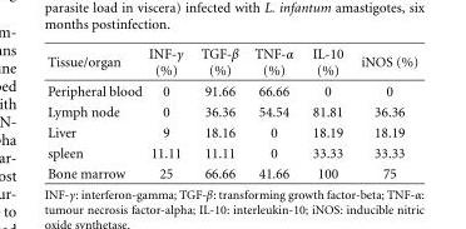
<table><thead><tr><td>Tissue/organ</td><td>INF-γ (%)</td><td>TGF-β (%)</td><td>TNF-α (%)</td><td>IL-10 (%)</td><td>iNOS (%)</td></tr></thead><tbody><tr><td>Peripheral blood</td><td>0</td><td>91.66</td><td>66.66</td><td>0</td><td>0</td></tr><tr><td>Lymph node</td><td>0</td><td>36.36</td><td>54.54</td><td>81.81</td><td>36.36</td></tr><tr><td>Liver</td><td>9</td><td>18.16</td><td>0</td><td>18.19</td><td>18.19</td></tr><tr><td>spleen</td><td>11.11</td><td>11.11</td><td>0</td><td>33.33</td><td>33.33</td></tr><tr><td>Bone marrow</td><td>25</td><td>66.66</td><td>41.66</td><td>100</td><td>75</td></tr></tbody></table>